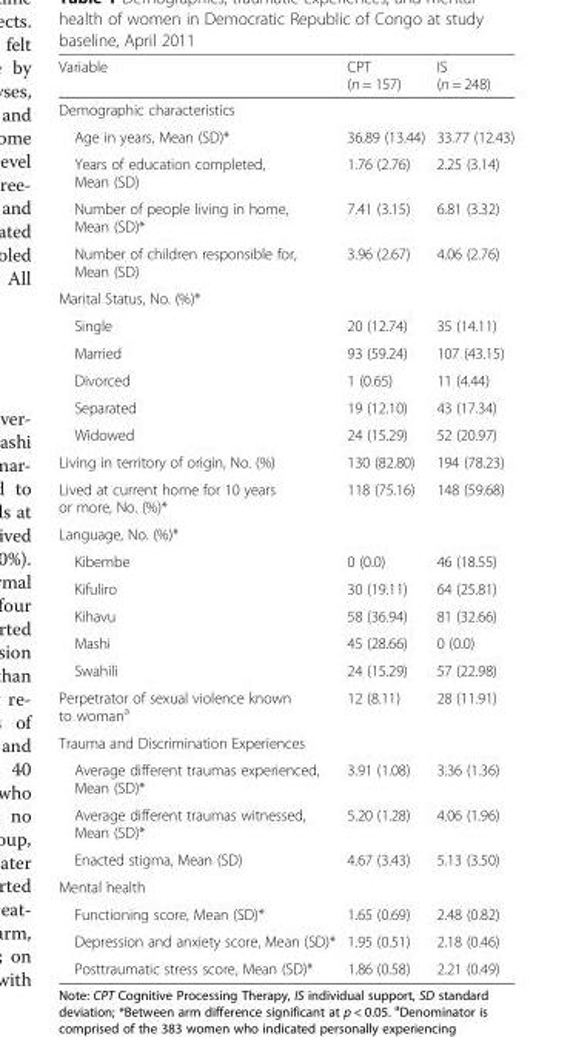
<table><thead><tr><td>Variable</td><td>CPT (n = 157)</td><td>IS (n = 248)</td></tr></thead><tbody><tr><td colspan="3">Demographic characteristics</td></tr><tr><td>Age in years, Mean (SD)*</td><td>36.89 (13.44)</td><td>33.77 (12.43)</td></tr><tr><td>Years of education completed, Mean (SD)</td><td>1.76 (2.76)</td><td>2.25 (3.14)</td></tr><tr><td>Number of people living in home, Mean (SD)*</td><td>7.41 (3.15)</td><td>6.81 (3.32)</td></tr><tr><td>Number of children responsible for, Mean (SD)</td><td>3.96 (2.67)</td><td>4.06 (2.76)</td></tr><tr><td colspan="3">Marital Status, No. (%)*</td></tr><tr><td>Single</td><td>20 (12.74)</td><td>35 (14.11)</td></tr><tr><td>Married</td><td>93 (59.24)</td><td>107 (43.15)</td></tr><tr><td>Divorced</td><td>1 (0.65)</td><td>11 (4.44)</td></tr><tr><td>Separated</td><td>19 (12.10)</td><td>43 (17.34)</td></tr><tr><td>Widowed</td><td>24 (15.29)</td><td>52 (20.97)</td></tr><tr><td>Living in territory of origin, No. (%)</td><td>130 (82.80)</td><td>194 (78.23)</td></tr><tr><td>Lived at current home for 10 years or more, No. (%)*</td><td>118 (75.16)</td><td>148 (59.68)</td></tr><tr><td colspan="3">Language, No. (%)*</td></tr><tr><td>Kibembe</td><td>0 (0.0)</td><td>46 (18.55)</td></tr><tr><td>Kifuliro</td><td>30 (19.11)</td><td>64 (25.81)</td></tr><tr><td>Kihavu</td><td>58 (36.94)</td><td>81 (32.66)</td></tr><tr><td>Mashi</td><td>45 (28.66)</td><td>0 (0.0)</td></tr><tr><td>Swahili</td><td>24 (15.29)</td><td>57 (22.98)</td></tr><tr><td>Perpetrator of sexual violence known to woman<sup>a</sup></td><td>12 (8.11)</td><td>28 (11.91)</td></tr><tr><td colspan="3">Trauma and Discrimination Experiences</td></tr><tr><td>Average different traumas experienced, Mean (SD)*</td><td>3.91 (1.08)</td><td>3.36 (1.36)</td></tr><tr><td>Average different traumas witnessed, Mean (SD)*</td><td>5.20 (1.28)</td><td>4.06 (1.96)</td></tr><tr><td>Enacted stigma, Mean (SD)</td><td>4.67 (3.43)</td><td>5.13 (3.50)</td></tr><tr><td colspan="3">Mental health</td></tr><tr><td>Functioning score, Mean (SD)*</td><td>1.65 (0.69)</td><td>2.48 (0.82)</td></tr><tr><td>Depression and anxiety score, Mean (SD)*</td><td>1.95 (0.51)</td><td>2.18 (0.46)</td></tr><tr><td>Posttraumatic stress score, Mean (SD)*</td><td>1.86 (0.58)</td><td>2.21 (0.49)</td></tr></tbody></table>